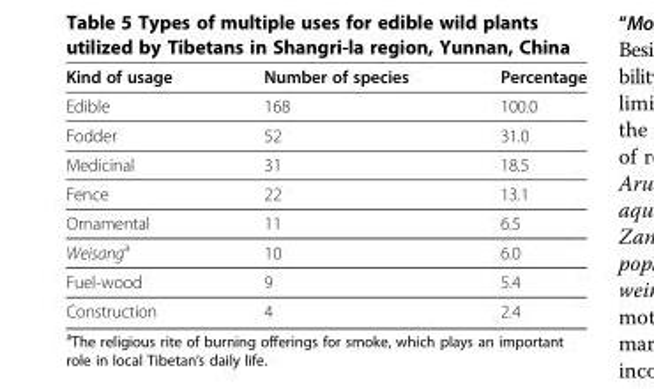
<table><thead><tr><td>Kind of usage</td><td>Number of species</td><td>Percentage</td></tr></thead><tbody><tr><td>Edible</td><td>168</td><td>100.0</td></tr><tr><td>Fodder</td><td>52</td><td>31.0</td></tr><tr><td>Medicinal</td><td>31</td><td>18.5</td></tr><tr><td>Fence</td><td>22</td><td>13.1</td></tr><tr><td>Ornamental</td><td>11</td><td>6.5</td></tr><tr><td>Weisang<sup>a</sup></td><td>10</td><td>6.0</td></tr><tr><td>Fuel-wood</td><td>9</td><td>5.4</td></tr><tr><td>Construction</td><td>4</td><td>2.4</td></tr></tbody></table>